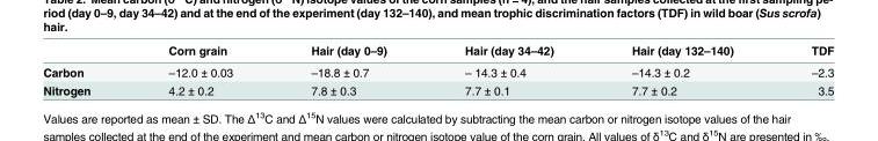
<table><thead><tr><td></td><td>Corn grain</td><td>Hair (day 0–9)</td><td>Hair (day 34–42)</td><td>Hair (day 132–140)</td><td>TDF</td></tr></thead><tbody><tr><td>Carbon</td><td>–12.0 ± 0.03</td><td>–18.8 ± 0.7</td><td>– 14.3 ± 0.4</td><td>–14.3 ± 0.2</td><td>–2.3</td></tr><tr><td>Nitrogen</td><td>4.2 ± 0.2</td><td>7.8 ± 0.3</td><td>7.7 ± 0.1</td><td>7.7 ± 0.2</td><td>3.5</td></tr></tbody></table>